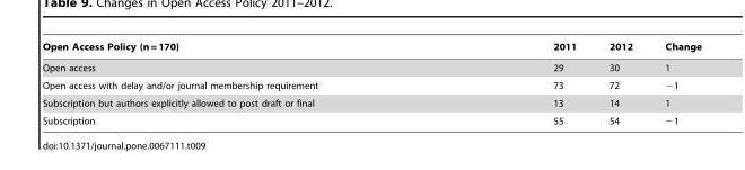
<table><thead><tr><td>Open Access Policy (n = 170)</td><td>2011</td><td>2012</td><td>Change</td></tr></thead><tbody><tr><td>Open access</td><td>29</td><td>30</td><td>1</td></tr><tr><td>Open access with delay and/or journal membership requirement</td><td>73</td><td>72</td><td>−1</td></tr><tr><td>Subscription but authors explicitly allowed to post draft or final</td><td>13</td><td>14</td><td>1</td></tr><tr><td>Subscription</td><td>55</td><td>54</td><td>−1</td></tr></tbody></table>